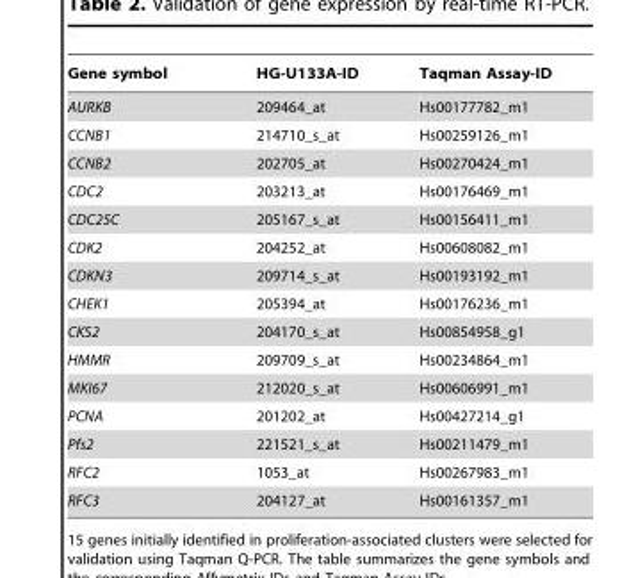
<table><thead><tr><td>Gene symbol</td><td>HG-U133A-ID</td><td>Taqman Assay-ID</td></tr></thead><tbody><tr><td>AURKB</td><td>209464_at</td><td>Hs00177782_m1</td></tr><tr><td>CCNB1</td><td>214710_s_at</td><td>Hs00259126_m1</td></tr><tr><td>CCNB2</td><td>202705_at</td><td>Hs00270424_m1</td></tr><tr><td>CDC2</td><td>203213_at</td><td>Hs00176469_m1</td></tr><tr><td>CDC25C</td><td>205167_s_at</td><td>Hs00156411_m1</td></tr><tr><td>CDK2</td><td>204252_at</td><td>Hs00608082_m1</td></tr><tr><td>CDKN3</td><td>209714_s_at</td><td>Hs00193192_m1</td></tr><tr><td>CHEK1</td><td>205394_at</td><td>Hs00176236_m1</td></tr><tr><td>CKS2</td><td>204170_s_at</td><td>Hs00854958_g1</td></tr><tr><td>HMMR</td><td>209709_s_at</td><td>Hs00234864_m1</td></tr><tr><td>MKI67</td><td>212020_s_at</td><td>Hs00606991_m1</td></tr><tr><td>PCNA</td><td>201202_at</td><td>Hs00427214_g1</td></tr><tr><td>Pfs2</td><td>221521_s_at</td><td>Hs00211479_m1</td></tr><tr><td>RFC2</td><td>1053_at</td><td>Hs00267983_m1</td></tr><tr><td>RFC3</td><td>204127_at</td><td>Hs00161357_m1</td></tr></tbody></table>